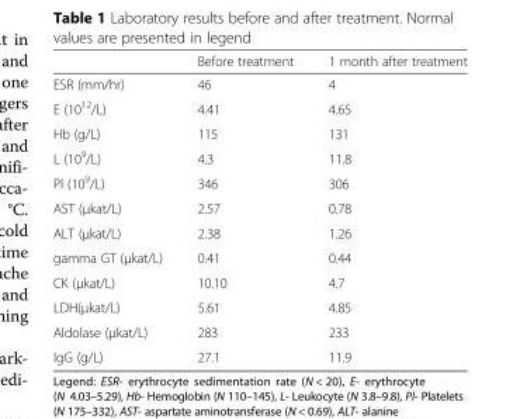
<table><thead><tr><td></td><td>Before treatment</td><td>1 month after treatment</td></tr></thead><tbody><tr><td>ESR (mm/hr)</td><td>46</td><td>4</td></tr><tr><td>E (10<sup>12</sup>/L)</td><td>4.41</td><td>4.65</td></tr><tr><td>Hb (g/L)</td><td>115</td><td>131</td></tr><tr><td>L (10<sup>9</sup>/L)</td><td>4.3</td><td>11.8</td></tr><tr><td>Pl (10<sup>9</sup>/L)</td><td>346</td><td>306</td></tr><tr><td>AST (μkat/L)</td><td>2.57</td><td>0.78</td></tr><tr><td>ALT (μkat/L)</td><td>2.38</td><td>1.26</td></tr><tr><td>gamma GT (μkat/L)</td><td>0.41</td><td>0.44</td></tr><tr><td>CK (μkat/L)</td><td>10.10</td><td>4.7</td></tr><tr><td>LDH(μkat/L)</td><td>5.61</td><td>4.85</td></tr><tr><td>Aldolase (μkat/L)</td><td>283</td><td>233</td></tr><tr><td>IgG (g/L)</td><td>27.1</td><td>11.9</td></tr></tbody></table>